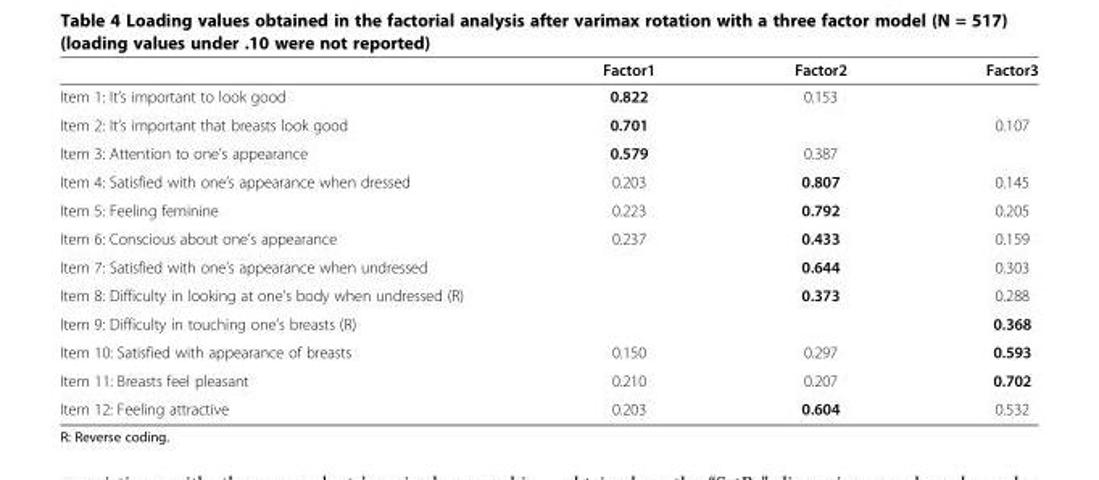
<table><thead><tr><td></td><td>Factor1</td><td>Factor2</td><td>Factor3</td></tr></thead><tbody><tr><td>Item 1: It’s important to look good</td><td>0.822</td><td>0.153</td><td></td></tr><tr><td>Item 2: It’s important that breasts look good</td><td>0.701</td><td></td><td>0.107</td></tr><tr><td>Item 3: Attention to one’s appearance</td><td>0.579</td><td>0.387</td><td></td></tr><tr><td>Item 4: Satisfied with one’s appearance when dressed</td><td>0.203</td><td>0.807</td><td>0.145</td></tr><tr><td>Item 5: Feeling feminine</td><td>0.223</td><td>0.792</td><td>0.205</td></tr><tr><td>Item 6: Conscious about one’s appearance</td><td>0.237</td><td>0.433</td><td>0.159</td></tr><tr><td>Item 7: Satisfied with one’s appearance when undressed</td><td></td><td>0.644</td><td>0.303</td></tr><tr><td>Item 8: Difficulty in looking at one’s body when undressed (R)</td><td></td><td>0.373</td><td>0.288</td></tr><tr><td>Item 9: Difficulty in touching one’s breasts (R)</td><td></td><td></td><td>0.368</td></tr><tr><td>Item 10: Satisfied with appearance of breasts</td><td>0.150</td><td>0.297</td><td>0.593</td></tr><tr><td>Item 11: Breasts feel pleasant</td><td>0.210</td><td>0.207</td><td>0.702</td></tr><tr><td>Item 12: Feeling attractive</td><td>0.203</td><td>0.604</td><td>0.532</td></tr></tbody></table>